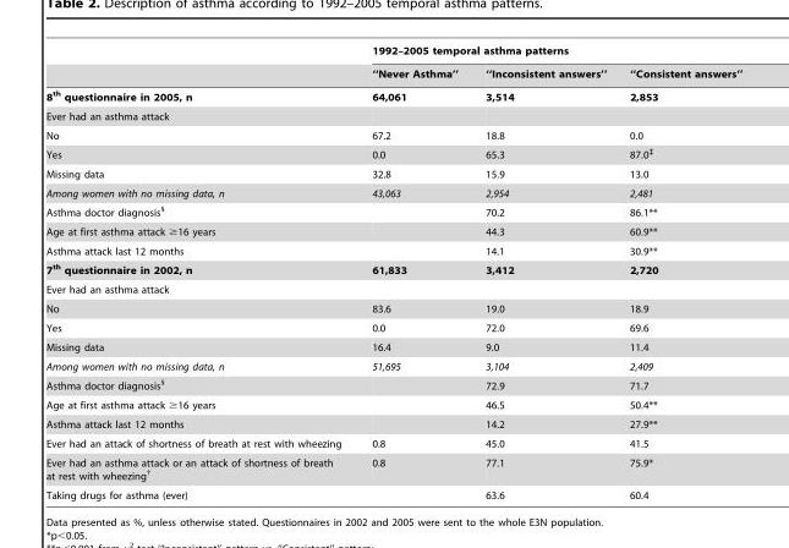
<table><thead><tr><td rowspan="2"></td><td colspan="3">1992–2005 temporal asthma patterns</td></tr><tr><td>‘‘Never Asthma’’</td><td>‘‘Inconsistent answers’’</td><td>‘‘Consistent answers’’</td></tr></thead><tbody><tr><td>8<sup>th</sup> questionnaire in 2005, n</td><td>64,061</td><td>3,514</td><td>2,853</td></tr><tr><td colspan="4">Ever had an asthma attack</td></tr><tr><td>No</td><td>67.2</td><td>18.8</td><td>0.0</td></tr><tr><td>Yes</td><td>0.0</td><td>65.3</td><td>87.0‡</td></tr><tr><td>Missing data</td><td>32.8</td><td>15.9</td><td>13.0</td></tr><tr><td>Among women with no missing data, n</td><td>43,063</td><td>2,954</td><td>2,481</td></tr><tr><td>Asthma doctor diagnosis§</td><td></td><td>70.2</td><td>86.1**</td></tr><tr><td>Age at first asthma attack ≥16 years</td><td></td><td>44.3</td><td>60.9**</td></tr><tr><td>Asthma attack last 12 months</td><td></td><td>14.1</td><td>30.9**</td></tr><tr><td>7<sup>th</sup> questionnaire in 2002, n</td><td>61,833</td><td>3,412</td><td>2,720</td></tr><tr><td colspan="4">Ever had an asthma attack</td></tr><tr><td>No</td><td>83.6</td><td>19.0</td><td>18.9</td></tr><tr><td>Yes</td><td>0.0</td><td>72.0</td><td>69.6</td></tr><tr><td>Missing data</td><td>16.4</td><td>9.0</td><td>11.4</td></tr><tr><td>Among women with no missing data, n</td><td>51,695</td><td>3,104</td><td>2,409</td></tr><tr><td>Asthma doctor diagnosis§</td><td></td><td>72.9</td><td>71.7</td></tr><tr><td>Age at first asthma attack ≥16 years</td><td></td><td>46.5</td><td>50.4**</td></tr><tr><td>Asthma attack last 12 months</td><td></td><td>14.2</td><td>27.9**</td></tr><tr><td>Ever had an attack of shortness of breath at rest with wheezing</td><td>0.8</td><td>45.0</td><td>41.5</td></tr><tr><td>Ever had an asthma attack or an attack of shortness of breath at rest with wheezing†</td><td>0.8</td><td>77.1</td><td>75.9*</td></tr><tr><td>Taking drugs for asthma (ever)</td><td></td><td>63.6</td><td>60.4</td></tr></tbody></table>